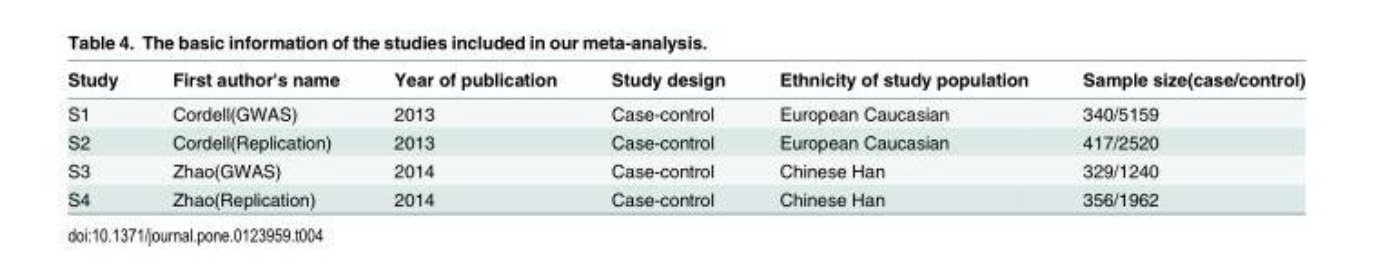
<table><thead><tr><td>Study</td><td>First author&#x27;s name</td><td>Year of publication</td><td>Study design</td><td>Ethnicity of study population</td><td>Sample size(case/control)</td></tr></thead><tbody><tr><td>S1</td><td>Cordell(GWAS)</td><td>2013</td><td>Case-control</td><td>European Caucasian</td><td>340/5159</td></tr><tr><td>S2</td><td>Cordell(Replication)</td><td>2013</td><td>Case-control</td><td>European Caucasian</td><td>417/2520</td></tr><tr><td>S3</td><td>Zhao(GWAS)</td><td>2014</td><td>Case-control</td><td>Chinese Han</td><td>329/1240</td></tr><tr><td>S4</td><td>Zhao(Replication)</td><td>2014</td><td>Case-control</td><td>Chinese Han</td><td>356/1962</td></tr></tbody></table>